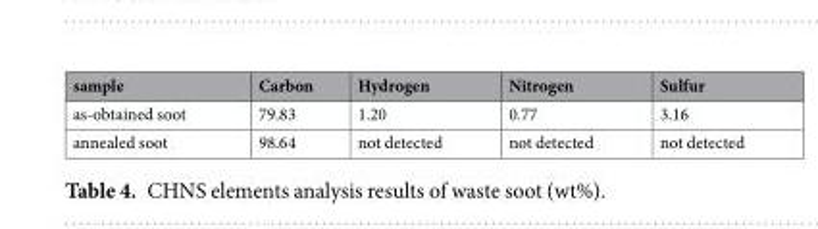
<table><thead><tr><td>sample</td><td>Carbon</td><td>Hydrogen</td><td>Nitrogen</td><td>Sulfur</td></tr></thead><tbody><tr><td>as-obtained soot</td><td>79.83</td><td>1.20</td><td>0.77</td><td>3.16</td></tr><tr><td>annealed soot</td><td>98.64</td><td>not detected</td><td>not detected</td><td>not detected</td></tr></tbody></table>